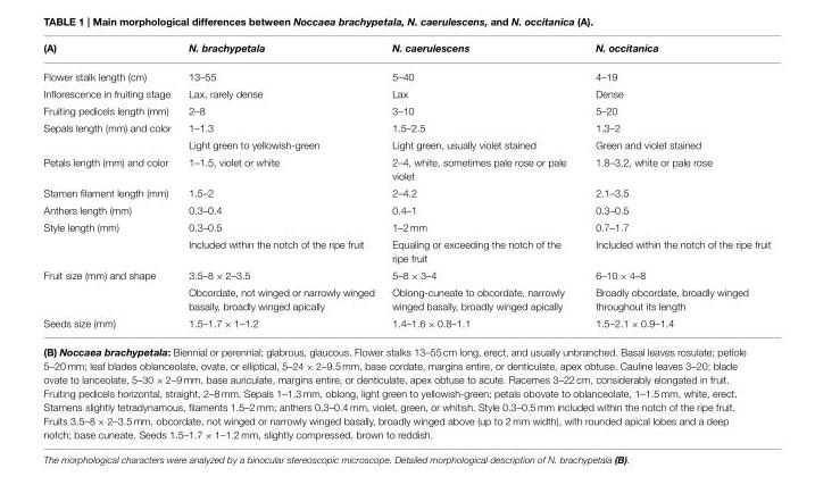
<table><thead><tr><td>(A)</td><td>N. brachypetala</td><td>N. caerulescens</td><td>N. occitanica</td></tr></thead><tbody><tr><td>Flower stalk length (cm)</td><td>13–55</td><td>5–40</td><td>4–19</td></tr><tr><td>Inflorescence in fruiting stage</td><td>Lax, rarely dense</td><td>Lax</td><td>Dense</td></tr><tr><td>Fruiting pedicels length (mm)</td><td>2–8</td><td>3–10</td><td>5–20</td></tr><tr><td rowspan="2">Sepals length (mm) and color</td><td>1–1.3</td><td>1.5–2.5</td><td>1.3–2</td></tr><tr><td>Light green to yellowish-green</td><td>Light green, usually violet stained</td><td>Green and violet stained</td></tr><tr><td>Petals length (mm) and color</td><td>1–1.5, violet or white</td><td>2–4, white, sometimes pale rose or pale violet</td><td>1.8–3.2, white or pale rose</td></tr><tr><td>Stamen filament length (mm)</td><td>1.5–2</td><td>2–4.2</td><td>2.1–3.5</td></tr><tr><td>Anthers length (mm)</td><td>0.3–0.4</td><td>0.4–1</td><td>0.3–0.5</td></tr><tr><td rowspan="2">Style length (mm)</td><td>0.3–0.5</td><td>1–2 mm</td><td>0.7–1.7</td></tr><tr><td>Included within the notch of the ripe fruit</td><td>Equaling or exceeding the notch of the ripe fruit</td><td>Included within the notch of the ripe fruit</td></tr><tr><td rowspan="2">Fruit size (mm) and shape</td><td>3.5–8 × 2–3.5</td><td>5–8 × 3–4</td><td>6–10 × 4–8</td></tr><tr><td>Obcordate, not winged or narrowly winged basally, broadly winged apically</td><td>Oblong-cuneate to obcordate, narrowly winged basally, broadly winged apically</td><td>Broadly obcordate, broadly winged throughout its length</td></tr><tr><td>Seeds size (mm)</td><td>1.5–1.7 × 1–1.2</td><td>1.4–1.6 × 0.8–1.1</td><td>1.5–2.1 × 0.9–1.4</td></tr><tr><td colspan="4">(B) Noccaea brachypetala: Biennial or perennial; glabrous, glaucous. Flower stalks 13–55 cm long, erect, and usually unbranched. Basal leaves rosulate; petiole 5–20 mm; leaf blades oblanceolate, ovate, or elliptical, 5–24 × 2–9.5 mm, base cordate, margins entire, or denticulate, apex obtuse. Cauline leaves 3–20; blade ovate to lanceolate, 5–30 × 2–9 mm, base auriculate, margins entire, or denticulate, apex obtuse to acute. Racemes 3–22 cm, considerably elongated in fruit. Fruiting pedicels horizontal, straight, 2–8 mm. Sepals 1–1.3 mm, oblong, light green to yellowish-green; petals obovate to oblanceolate, 1–1.5 mm, white, erect. Stamens slightly tetradynamous, filaments 1.5–2 mm; anthers 0.3–0.4 mm, violet, green, or whitish. Style 0.3–0.5 mm included within the notch of the ripe fruit. Fruits 3.5–8 × 2–3.5 mm, obcordate, not winged or narrowly winged basally, broadly winged above (up to 2 mm width), with rounded apical lobes and a deep notch; base cuneate. Seeds 1.5–1.7 × 1–1.2 mm, slightly compressed, brown to reddish.</td></tr></tbody></table>